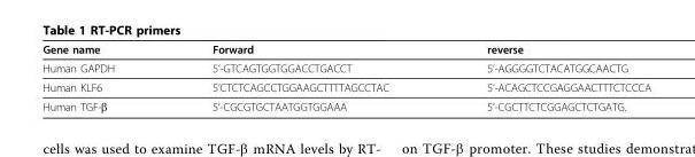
<table><thead><tr><td>Gene name</td><td>Forward</td><td>reverse</td></tr></thead><tbody><tr><td>Human GAPDH</td><td>5’-GTCAGTGGTGGACCTGACCT</td><td>5’-AGGGGTCTACATGGCAACTG</td></tr><tr><td>Human KLF6</td><td>5’CTCTCAGCCTGGAAGCTTTTAGCCTAC</td><td>5’-ACAGCTCCGAGGAACTTTCTCCCA</td></tr><tr><td>Human TGF-β</td><td>5’-CGCGTGCTAATGGTGGAAA</td><td>5’-CGCTTCTCGGAGCTCTGATG.</td></tr></tbody></table>